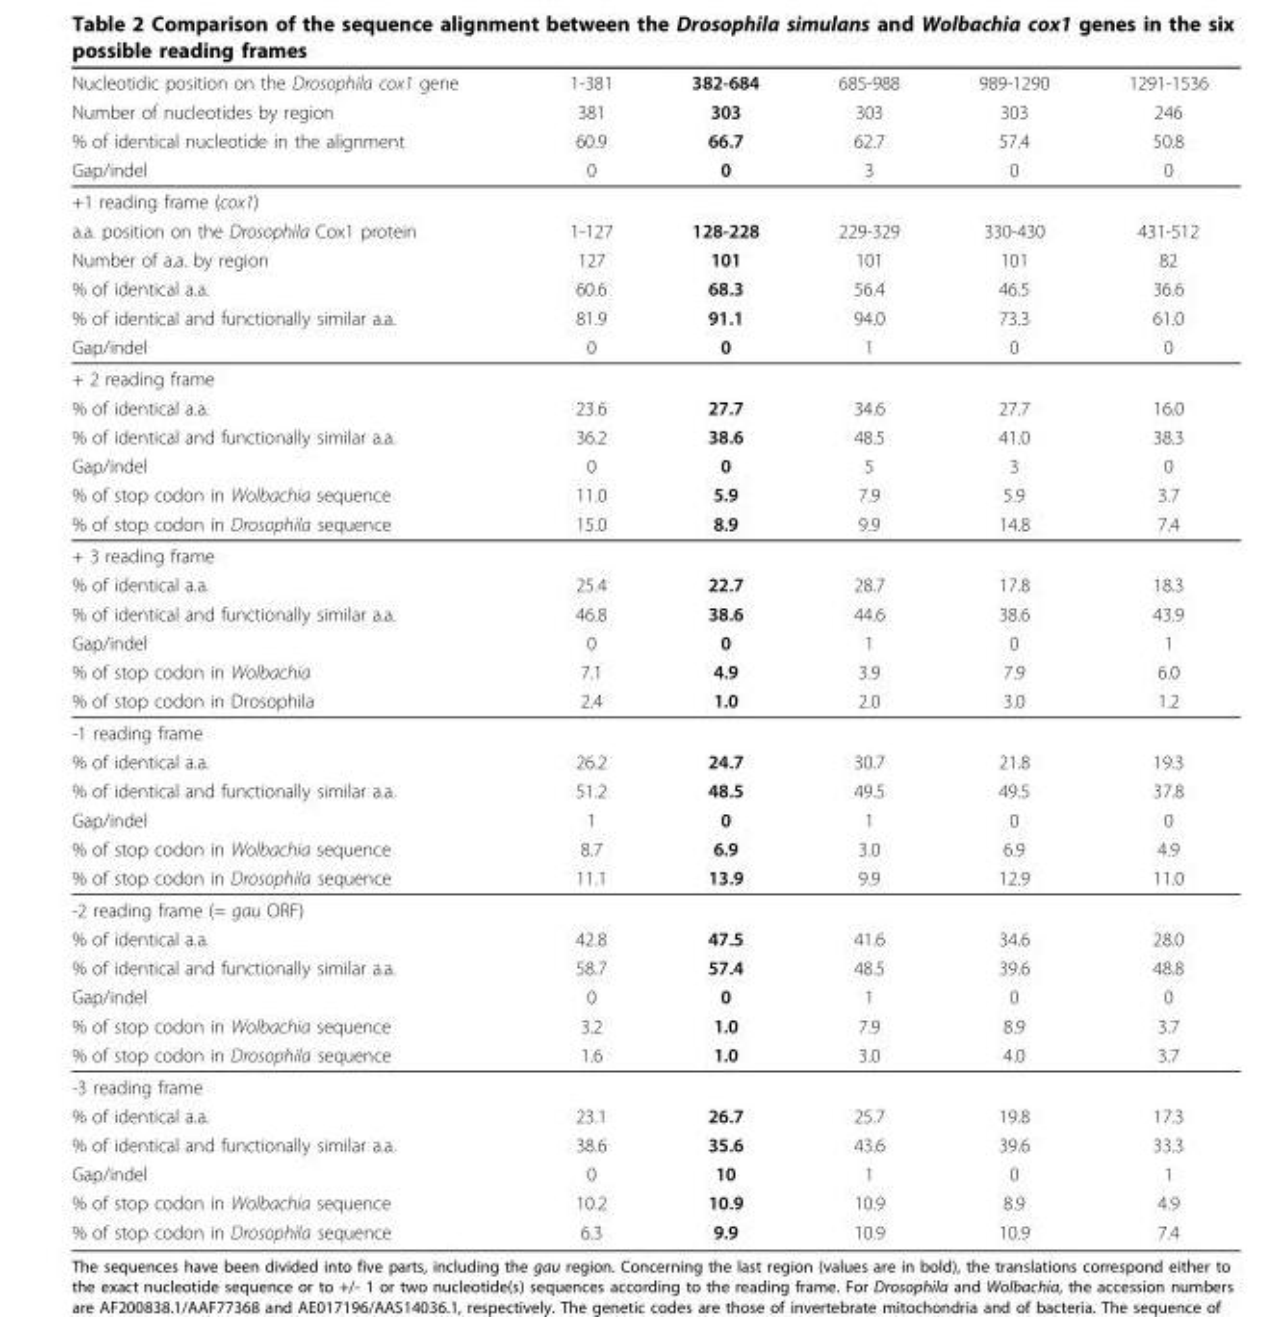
<table><thead><tr><td rowspan="4">Nucleotidic position on the Drosophila cox1 gene Number of nucleotides by region % of identical nucleotide in the alignment Gap/indel</td><td rowspan="4">1-381 381 60.9 0</td><td rowspan="4">382-684 303 66.7 0</td><td rowspan="4">685-988 303 62.7 3</td><td rowspan="4">989-1290 303 57.4 0</td><td rowspan="4">1291-1536 246 50.8 0</td></tr><tr></tr><tr></tr><tr></tr></thead><tbody><tr><td colspan="6">+1 reading frame (cox1)</td></tr><tr><td>a.a. position on the Drosophila Cox1 protein</td><td>1-127</td><td>128-228</td><td>229-329</td><td>330-430</td><td>431-512</td></tr><tr><td>Number of a.a. by region</td><td>127</td><td>101</td><td>101</td><td>101</td><td>82</td></tr><tr><td>% of identical a.a.</td><td>60.6</td><td>68.3</td><td>56.4</td><td>46.5</td><td>36.6</td></tr><tr><td>% of identical and functionally similar a.a.</td><td>81.9</td><td>91.1</td><td>94.0</td><td>73.3</td><td>61.0</td></tr><tr><td>Gap/indel</td><td>0</td><td>0</td><td>1</td><td>0</td><td>0</td></tr><tr><td colspan="6">+ 2 reading frame</td></tr><tr><td>% of identical a.a.</td><td>23.6</td><td>27.7</td><td>34.6</td><td>27.7</td><td>16.0</td></tr><tr><td>% of identical and functionally similar a.a.</td><td>36.2</td><td>38.6</td><td>48.5</td><td>41.0</td><td>38.3</td></tr><tr><td>Gap/indel</td><td>0</td><td>0</td><td>5</td><td>3</td><td>0</td></tr><tr><td>% of stop codon in Wolbachia sequence</td><td>11.0</td><td>5.9</td><td>7.9</td><td>5.9</td><td>3.7</td></tr><tr><td>% of stop codon in Drosophila sequence</td><td>15.0</td><td>8.9</td><td>9.9</td><td>14.8</td><td>7.4</td></tr><tr><td colspan="6">+ 3 reading frame</td></tr><tr><td>% of identical a.a.</td><td>25.4</td><td>22.7</td><td>28.7</td><td>17.8</td><td>18.3</td></tr><tr><td>% of identical and functionally similar a.a.</td><td>46.8</td><td>38.6</td><td>44.6</td><td>38.6</td><td>43.9</td></tr><tr><td>Gap/indel</td><td>0</td><td>0</td><td>1</td><td>0</td><td>1</td></tr><tr><td>% of stop codon in Wolbachia</td><td>7.1</td><td>4.9</td><td>3.9</td><td>7.9</td><td>6.0</td></tr><tr><td>% of stop codon in Drosophila</td><td>2.4</td><td>1.0</td><td>2.0</td><td>3.0</td><td>1.2</td></tr><tr><td colspan="6">-1 reading frame</td></tr><tr><td>% of identical a.a.</td><td>26.2</td><td>24.7</td><td>30.7</td><td>21.8</td><td>19.3</td></tr><tr><td>% of identical and functionally similar a.a.</td><td>51.2</td><td>48.5</td><td>49.5</td><td>49.5</td><td>37.8</td></tr><tr><td>Gap/indel</td><td>1</td><td>0</td><td>1</td><td>0</td><td>0</td></tr><tr><td>% of stop codon in Wolbachia sequence</td><td>8.7</td><td>6.9</td><td>3.0</td><td>6.9</td><td>4.9</td></tr><tr><td>% of stop codon in Drosophila sequence</td><td>11.1</td><td>13.9</td><td>9.9</td><td>12.9</td><td>11.0</td></tr><tr><td colspan="6">-2 reading frame (= gau ORF)</td></tr><tr><td>% of identical a.a.</td><td>42.8</td><td>47.5</td><td>41.6</td><td>34.6</td><td>28.0</td></tr><tr><td>% of identical and functionally similar a.a.</td><td>58.7</td><td>57.4</td><td>48.5</td><td>39.6</td><td>48.8</td></tr><tr><td>Gap/indel</td><td>0</td><td>0</td><td>1</td><td>0</td><td>0</td></tr><tr><td>% of stop codon in Wolbachia sequence</td><td>3.2</td><td>1.0</td><td>7.9</td><td>8.9</td><td>3.7</td></tr><tr><td>% of stop codon in Drosophila sequence</td><td>1.6</td><td>1.0</td><td>3.0</td><td>4.0</td><td>3.7</td></tr><tr><td colspan="6">-3 reading frame</td></tr><tr><td>% of identical a.a.</td><td>23.1</td><td>26.7</td><td>25.7</td><td>19.8</td><td>17.3</td></tr><tr><td>% of identical and functionally similar a.a.</td><td>38.6</td><td>35.6</td><td>43.6</td><td>39.6</td><td>33.3</td></tr><tr><td>Gap/indel</td><td>0</td><td>10</td><td>1</td><td>0</td><td>1</td></tr><tr><td>% of stop codon in Wolbachia sequence</td><td>10.2</td><td>10.9</td><td>10.9</td><td>8.9</td><td>4.9</td></tr><tr><td>% of stop codon in Drosophila sequence</td><td>6.3</td><td>9.9</td><td>10.9</td><td>10.9</td><td>7.4</td></tr></tbody></table>